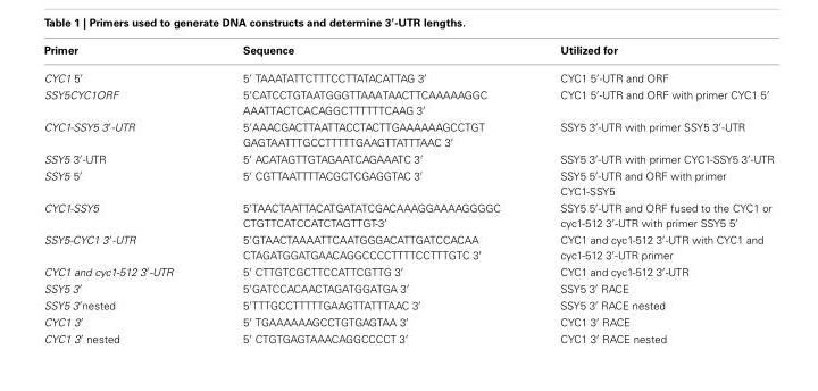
<table><thead><tr><td>Primer</td><td>Sequence</td><td>Utilized for</td></tr></thead><tbody><tr><td>CYC1 5′</td><td>5′ TAAATATTCTTTCCTTATACATTAG 3′</td><td>CYC1 5′-UTR and ORF</td></tr><tr><td>SSY5CYC1ORF</td><td>5′CATCCTGTAATGGGTTAAATAACTTCAAAAAGGC AAATTACTCACAGGCTTTTTTCAAG 3′</td><td>CYC1 5′-UTR and ORF with primer CYC1 5′</td></tr><tr><td>CYC1-SSY5 3′-UTR</td><td>5′AAACGACTTAATTACCTACTTGAAAAAAGCCTGT GAGTAATTTGCCTTTTTGAAGTTATTTAAC 3′</td><td>SSY5 3′-UTR with primer SSY5 3′-UTR</td></tr><tr><td>SSY5 3′-UTR</td><td>5′ ACATAGTTGTAGAATCAGAAATC 3′</td><td>SSY5 3′-UTR with primer CYC1-SSY5 3′-UTR</td></tr><tr><td>SSY5 5′</td><td>5′ CGTTAATTTTACGCTCGAGGTAC 3′</td><td>SSY5 5′-UTR and ORF with primer CYC1-SSY5</td></tr><tr><td>CYC1-SSY5</td><td>5′TAACTAATTACATGATATCGACAAAGGAAAAGGGGC CTGTTCATCCATCTAGTTGT-3′</td><td>SSY5 5′-UTR and ORF fused to the CYC1 or cyc1-512 3′-UTR with primer SSY5 5′</td></tr><tr><td>SSY5-CYC1 3′-UTR</td><td>5′GTAACTAAAATTCAATGGGACATTGATCCACAA CTAGATGGATGAACAGGCCCCTTTTCCTTTGTC 3′</td><td>CYC1 and cyc1-512 3′-UTR with CYC1 and cyc1-512 3′-UTR primer</td></tr><tr><td>CYC1 and cyc1-512 3′-UTR</td><td>5′ CTTGTCGCTTCCATTCGTTG 3′</td><td>CYC1 and cyc1-512 3′-UTR</td></tr><tr><td>SSY5 3′</td><td>5′GATCCACAACTAGATGGATGA 3′</td><td>SSY5 3′ RACE</td></tr><tr><td>SSY5 3′nested</td><td>5′TTTGCCTTTTTGAAGTTATTTAAC 3′</td><td>SSY5 3′ RACE nested</td></tr><tr><td>CYC1 3′</td><td>5′ TGAAAAAAGCCTGTGAGTAA 3′</td><td>CYC1 3′ RACE</td></tr><tr><td>CYC1 3′ nested</td><td>5′ CTGTGAGTAAACAGGCCCCT 3′</td><td>CYC1 3′ RACE nested</td></tr></tbody></table>